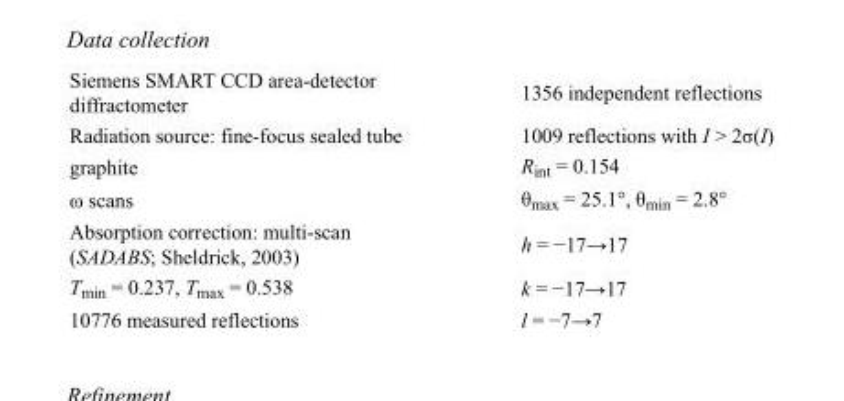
<table><tbody><tr><td>Siemens SMART CCD area-detector diffractometer</td><td>1356 independent reflections</td></tr><tr><td>Radiation source: fine-focus sealed tube</td><td>1009 reflections with I &gt; 2σ(I)</td></tr><tr><td>graphite</td><td>R<sub>int</sub> = 0.154</td></tr><tr><td>ω scans</td><td>θ<sub>max</sub> = 25.1°, θ<sub>min</sub> = 2.8°</td></tr><tr><td>Absorption correction: multi-scan (SADABS; Sheldrick, 2003)</td><td>h = −17→17</td></tr><tr><td>T<sub>min</sub> = 0.237, T<sub>max</sub> = 0.538</td><td>k = −17→17</td></tr><tr><td>10776 measured reflections</td><td>l = −7→7</td></tr></tbody></table>